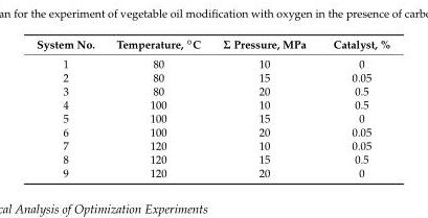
<table><thead><tr><td>System No.</td><td>Temperature, ◦C</td><td>Σ Pressure, MPa</td><td>Catalyst, %</td></tr></thead><tbody><tr><td>1</td><td>80</td><td>10</td><td>0</td></tr><tr><td>2</td><td>80</td><td>15</td><td>0.05</td></tr><tr><td>3</td><td>80</td><td>20</td><td>0.5</td></tr><tr><td>4</td><td>100</td><td>10</td><td>0.5</td></tr><tr><td>5</td><td>100</td><td>15</td><td>0</td></tr><tr><td>6</td><td>100</td><td>20</td><td>0.05</td></tr><tr><td>7</td><td>120</td><td>10</td><td>0.05</td></tr><tr><td>8</td><td>120</td><td>15</td><td>0.5</td></tr><tr><td>9</td><td>120</td><td>20</td><td>0</td></tr></tbody></table>